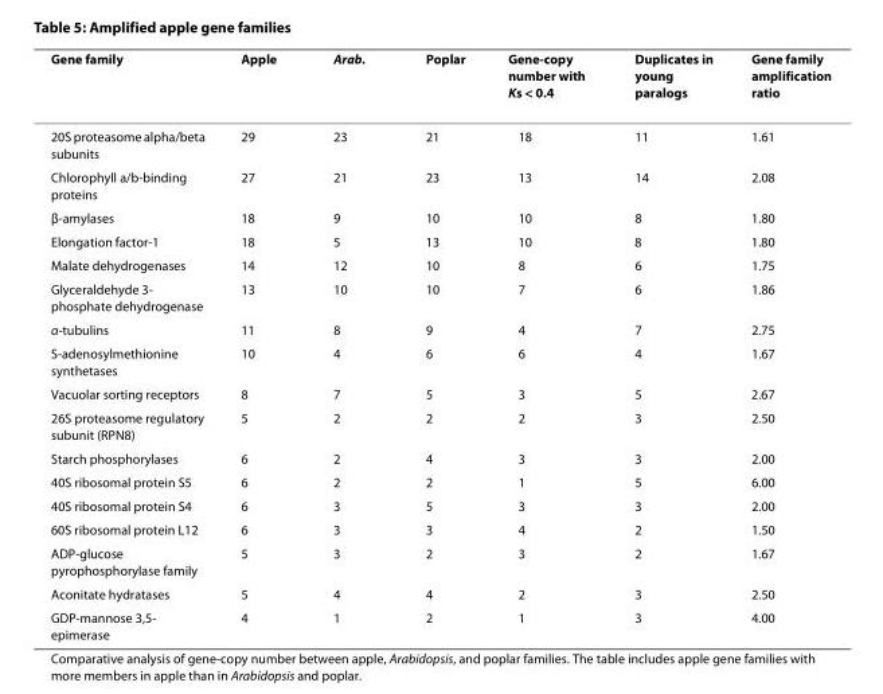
<table><thead><tr><td>Gene family</td><td>Apple</td><td>Arab.</td><td>Poplar</td><td>Gene-copy number with Ks &lt; 0.4</td><td>Duplicates in young paralogs</td><td>Gene family amplification ratio</td></tr></thead><tbody><tr><td>20S proteasome alpha/beta subunits</td><td>29</td><td>23</td><td>21</td><td>18</td><td>11</td><td>1.61</td></tr><tr><td>Chlorophyll a/b-binding proteins</td><td>27</td><td>21</td><td>23</td><td>13</td><td>14</td><td>2.08</td></tr><tr><td>β-amylases</td><td>18</td><td>9</td><td>10</td><td>10</td><td>8</td><td>1.80</td></tr><tr><td>Elongation factor-1</td><td>18</td><td>5</td><td>13</td><td>10</td><td>8</td><td>1.80</td></tr><tr><td>Malate dehydrogenases</td><td>14</td><td>12</td><td>10</td><td>8</td><td>6</td><td>1.75</td></tr><tr><td>Glyceraldehyde 3- phosphate dehydrogenase</td><td>13</td><td>10</td><td>10</td><td>7</td><td>6</td><td>1.86</td></tr><tr><td>α-tubulins</td><td>11</td><td>8</td><td>9</td><td>4</td><td>7</td><td>2.75</td></tr><tr><td>S-adenosylmethionine synthetases</td><td>10</td><td>4</td><td>6</td><td>6</td><td>4</td><td>1.67</td></tr><tr><td>Vacuolar sorting receptors</td><td>8</td><td>7</td><td>5</td><td>3</td><td>5</td><td>2.67</td></tr><tr><td>26S proteasome regulatory subunit (RPN8)</td><td>5</td><td>2</td><td>2</td><td>2</td><td>3</td><td>2.50</td></tr><tr><td>Starch phosphorylases</td><td>6</td><td>2</td><td>4</td><td>3</td><td>3</td><td>2.00</td></tr><tr><td>40S ribosomal protein S5</td><td>6</td><td>2</td><td>2</td><td>1</td><td>5</td><td>6.00</td></tr><tr><td>40S ribosomal protein S4</td><td>6</td><td>3</td><td>5</td><td>3</td><td>3</td><td>2.00</td></tr><tr><td>60S ribosomal protein L12</td><td>6</td><td>3</td><td>3</td><td>4</td><td>2</td><td>1.50</td></tr><tr><td>ADP-glucose pyrophosphorylase family</td><td>5</td><td>3</td><td>2</td><td>3</td><td>2</td><td>1.67</td></tr><tr><td>Aconitate hydratases</td><td>5</td><td>4</td><td>4</td><td>2</td><td>3</td><td>2.50</td></tr><tr><td>GDP-mannose 3,5- epimerase</td><td>4</td><td>1</td><td>2</td><td>1</td><td>3</td><td>4.00</td></tr></tbody></table>